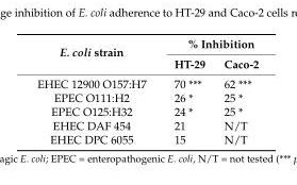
<table><thead><tr><td rowspan="2">E. coli strain</td><td colspan="2">% Inhibition</td></tr><tr><td>HT-29</td><td>Caco-2</td></tr></thead><tbody><tr><td>EHEC 12900 O157:H7</td><td>70 ***</td><td>62 ***</td></tr><tr><td>EPEC O111:H2</td><td>26 *</td><td>25 *</td></tr><tr><td>EPEC O125:H32</td><td>24 *</td><td>25 *</td></tr><tr><td>EHEC DAF 454</td><td>21</td><td>N/T</td></tr><tr><td>EHEC DPC 6055</td><td>15</td><td>N/T</td></tr></tbody></table>